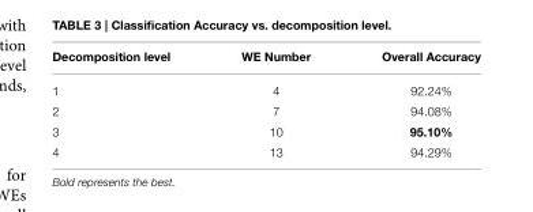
<table><thead><tr><td>Decomposition level</td><td>WE Number</td><td>Overall Accuracy</td></tr></thead><tbody><tr><td>1</td><td>4</td><td>92.24%</td></tr><tr><td>2</td><td>7</td><td>94.08%</td></tr><tr><td>3</td><td>10</td><td>95.10%</td></tr><tr><td>4</td><td>13</td><td>94.29%</td></tr></tbody></table>